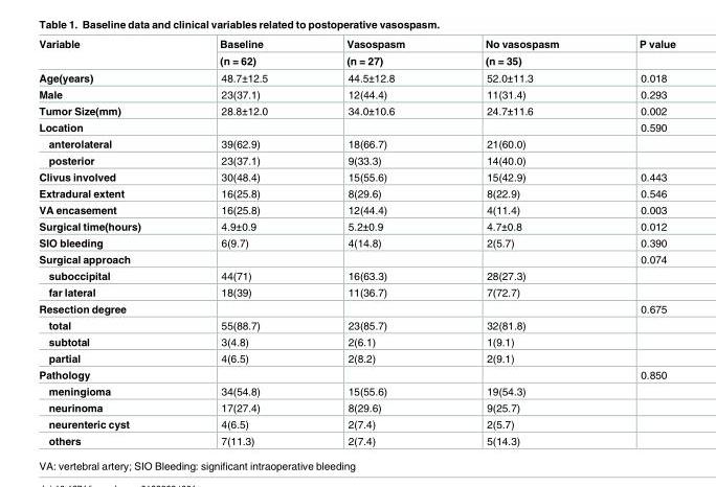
<table><thead><tr><td rowspan="2">Variable</td><td rowspan="2">Baseline (n = 62)</td><td rowspan="2">Vasospasm (n = 27)</td><td rowspan="2">No vasospasm (n = 35)</td><td rowspan="2">P value</td></tr><tr></tr></thead><tbody><tr><td>Age(years)</td><td>48.7±12.5</td><td>44.5±12.8</td><td>52.0±11.3</td><td>0.018</td></tr><tr><td>Male</td><td>23(37.1)</td><td>12(44.4)</td><td>11(31.4)</td><td>0.293</td></tr><tr><td>Tumor Size(mm)</td><td>28.8±12.0</td><td>34.0±10.6</td><td>24.7±11.6</td><td>0.002</td></tr><tr><td>Location</td><td></td><td></td><td></td><td>0.590</td></tr><tr><td>anterolateral</td><td>39(62.9)</td><td>18(66.7)</td><td>21(60.0)</td><td></td></tr><tr><td>posterior</td><td>23(37.1)</td><td>9(33.3)</td><td>14(40.0)</td><td></td></tr><tr><td>Clivus involved</td><td>30(48.4)</td><td>15(55.6)</td><td>15(42.9)</td><td>0.443</td></tr><tr><td>Extradural extent</td><td>16(25.8)</td><td>8(29.6)</td><td>8(22.9)</td><td>0.546</td></tr><tr><td>VA encasement</td><td>16(25.8)</td><td>12(44.4)</td><td>4(11.4)</td><td>0.003</td></tr><tr><td>Surgical time(hours)</td><td>4.9±0.9</td><td>5.2±0.9</td><td>4.7±0.8</td><td>0.012</td></tr><tr><td>SIO bleeding</td><td>6(9.7)</td><td>4(14.8)</td><td>2(5.7)</td><td>0.390</td></tr><tr><td>Surgical approach</td><td></td><td></td><td></td><td>0.074</td></tr><tr><td>suboccipital</td><td>44(71)</td><td>16(63.3)</td><td>28(27.3)</td><td></td></tr><tr><td>far lateral</td><td>18(39)</td><td>11(36.7)</td><td>7(72.7)</td><td></td></tr><tr><td>Resection degree</td><td></td><td></td><td></td><td>0.675</td></tr><tr><td>total</td><td>55(88.7)</td><td>23(85.7)</td><td>32(81.8)</td><td></td></tr><tr><td>subtotal</td><td>3(4.8)</td><td>2(6.1)</td><td>1(9.1)</td><td></td></tr><tr><td>partial</td><td>4(6.5)</td><td>2(8.2)</td><td>2(9.1)</td><td></td></tr><tr><td>Pathology</td><td></td><td></td><td></td><td>0.850</td></tr><tr><td>meningioma</td><td>34(54.8)</td><td>15(55.6)</td><td>19(54.3)</td><td></td></tr><tr><td>neurinoma</td><td>17(27.4)</td><td>8(29.6)</td><td>9(25.7)</td><td></td></tr><tr><td>neurenteric cyst</td><td>4(6.5)</td><td>2(7.4)</td><td>2(5.7)</td><td></td></tr><tr><td>others</td><td>7(11.3)</td><td>2(7.4)</td><td>5(14.3)</td><td></td></tr></tbody></table>